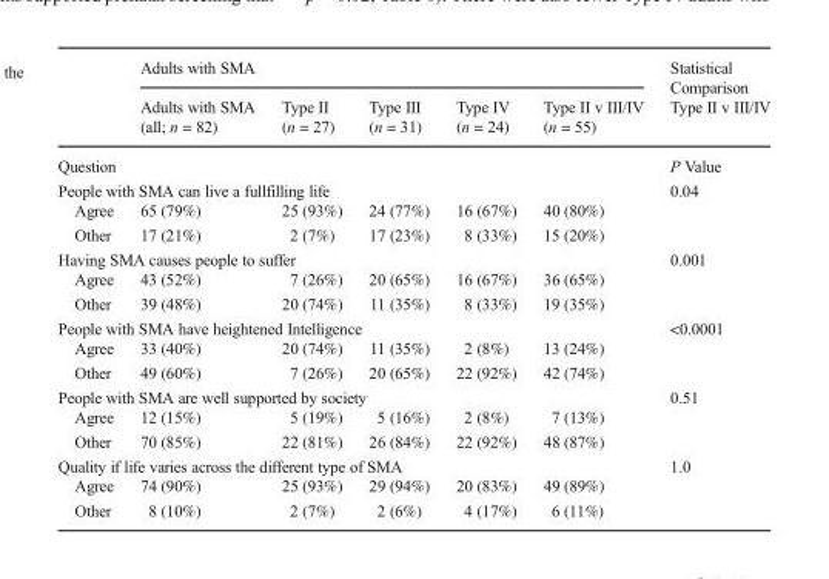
<table><thead><tr><td rowspan="2"></td><td colspan="5">Adults with SMA</td><td rowspan="2">Statistical Comparison Type II v III/IV</td></tr><tr><td>Adults with SMA (all; n = 82)</td><td>Type II (n = 27)</td><td>Type III (n = 31)</td><td>Type IV (n = 24)</td><td>Type II v III/IV (n = 55)</td></tr></thead><tbody><tr><td colspan="6">Question</td><td>P Value</td></tr><tr><td colspan="6">People with SMA can live a fullfilling life</td><td rowspan="3">0.04</td></tr><tr><td>Agree</td><td>65 (79%)</td><td>25 (93%)</td><td>24 (77%)</td><td>16 (67%)</td><td>40 (80%)</td></tr><tr><td>Other</td><td>17 (21%)</td><td>2 (7%)</td><td>17 (23%)</td><td>8 (33%)</td><td>15 (20%)</td></tr><tr><td colspan="6">Having SMA causes people to suffer</td><td rowspan="3">0.001</td></tr><tr><td>Agree</td><td>43 (52%)</td><td>7 (26%)</td><td>20 (65%)</td><td>16 (67%)</td><td>36 (65%)</td></tr><tr><td>Other</td><td>39 (48%)</td><td>20 (74%)</td><td>11 (35%)</td><td>8 (33%)</td><td>19 (35%)</td></tr><tr><td colspan="6">People with SMA have heightened Intelligence</td><td rowspan="3">&lt;0.0001</td></tr><tr><td>Agree</td><td>33 (40%)</td><td>20 (74%)</td><td>11 (35%)</td><td>2 (8%)</td><td>13 (24%)</td></tr><tr><td>Other</td><td>49 (60%)</td><td>7 (26%)</td><td>20 (65%)</td><td>22 (92%)</td><td>42 (74%)</td></tr><tr><td colspan="6">People with SMA are well supported by society</td><td rowspan="3">0.51</td></tr><tr><td>Agree</td><td>12 (15%)</td><td>5 (19%)</td><td>5 (16%)</td><td>2 (8%)</td><td>7 (13%)</td></tr><tr><td>Other</td><td>70 (85%)</td><td>22 (81%)</td><td>26 (84%)</td><td>22 (92%)</td><td>48 (87%)</td></tr><tr><td colspan="6">Quality if life varies across the different type of SMA</td><td rowspan="3">1.0</td></tr><tr><td>Agree</td><td>74 (90%)</td><td>25 (93%)</td><td>29 (94%)</td><td>20 (83%)</td><td>49 (89%)</td></tr><tr><td>Other</td><td>8 (10%)</td><td>2 (7%)</td><td>2 (6%)</td><td>4 (17%)</td><td>6 (11%)</td></tr></tbody></table>